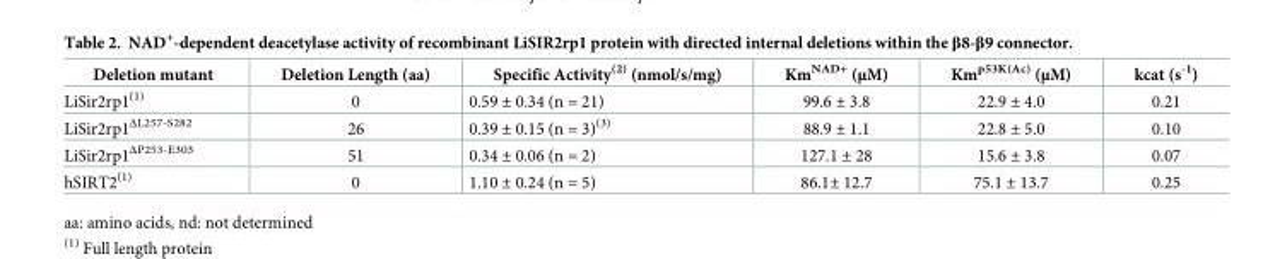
<table><thead><tr><td>Deletion mutant</td><td>Deletion Length (aa)</td><td>Specific Activity<sup>(2)</sup> (nmol/s/mg)</td><td>Km<sup>NAD+</sup> (μM)</td><td>Km<sup>p53K(Ac)</sup> (μM)</td><td>kcat (s<sup>-1</sup>)</td></tr></thead><tbody><tr><td>LiSir2rp1<sup>(1)</sup></td><td>0</td><td>0.59 ± 0.34 (n = 21)</td><td>99.6 ± 3.8</td><td>22.9 ± 4.0</td><td>0.21</td></tr><tr><td>LiSir2rp1<sup>ΔL257-S282</sup></td><td>26</td><td>0.39 ± 0.15 (n = 3)<sup>(3)</sup></td><td>88.9 ± 1.1</td><td>22.8 ± 5.0</td><td>0.10</td></tr><tr><td>LiSir2rp1<sup>ΔP253-E303</sup></td><td>51</td><td>0.34 ± 0.06 (n = 2)</td><td>127.1 ± 28</td><td>15.6 ± 3.8</td><td>0.07</td></tr><tr><td>hSIRT2<sup>(1)</sup></td><td>0</td><td>1.10 ± 0.24 (n = 5)</td><td>86.1± 12.7</td><td>75.1 ± 13.7</td><td>0.25</td></tr></tbody></table>